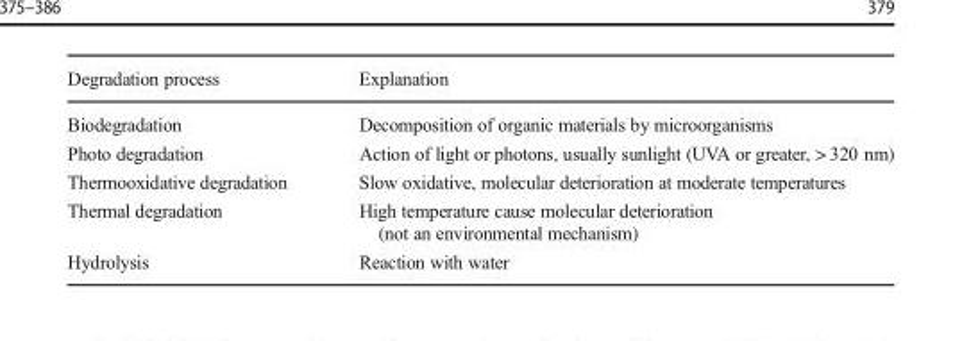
<table><thead><tr><td>Degradation process</td><td>Explanation</td></tr></thead><tbody><tr><td>Biodegradation</td><td>Decomposition of organic materials by microorganisms</td></tr><tr><td>Photo degradation</td><td>Action of light or photons, usually sunlight (UVA or greater, &gt; 320 nm)</td></tr><tr><td>Thermooxidative degradation</td><td>Slow oxidative, molecular deterioration at moderate temperatures</td></tr><tr><td>Thermal degradation</td><td>High temperature cause molecular deterioration (not an environmental mechanism)</td></tr><tr><td>Hydrolysis</td><td>Reaction with water</td></tr></tbody></table>